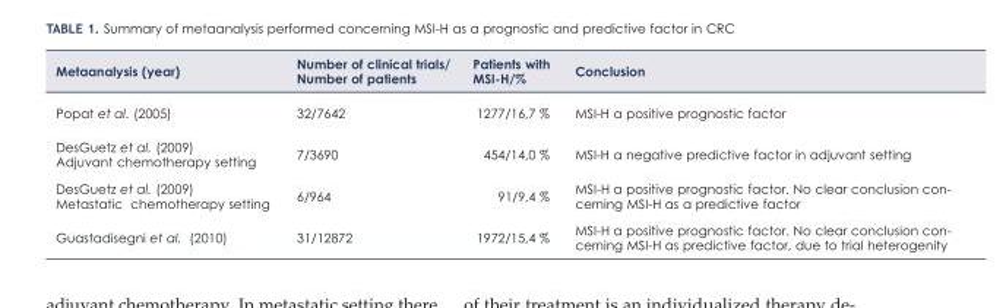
<table><thead><tr><td>Metaanalysis (year)</td><td>Number of clinical trials/ Number of patients</td><td>Patients with MSI-H/%</td><td>Conclusion</td></tr></thead><tbody><tr><td>Popat et al. (2005)</td><td>32/7642</td><td>1277/16,7 %</td><td>MSI-H a positive prognostic factor</td></tr><tr><td>DesGuetz et al. (2009) Adjuvant chemotherapy setting</td><td>7/3690</td><td>454/14,0 %</td><td>MSI-H a negative predictive factor in adjuvant setting</td></tr><tr><td>DesGuetz et al. (2009) Metastatic chemotherapy setting</td><td>6/964</td><td>91/9,4 %</td><td>MSI-H a positive prognostic factor. No clear conclusion con- cerning MSI-H as a predictive factor</td></tr><tr><td>Guastadisegni et al. (2010)</td><td>31/12872</td><td>1972/15,4 %</td><td>MSI-H a positive prognostic factor. No clear conclusion con- cerning MSI-H as predictive factor, due to trial heterogenity</td></tr></tbody></table>